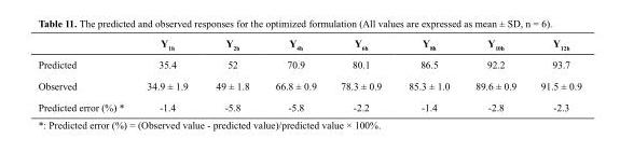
<table><thead><tr><td></td><td>Y1h</td><td>Y2h</td><td>Y4h</td><td>Y6h</td><td>Y8h</td><td>Y10h</td><td>Y12h</td></tr></thead><tbody><tr><td>Predicted</td><td>35.4</td><td>52</td><td>70.9</td><td>80.1</td><td>86.5</td><td>92.2</td><td>93.7</td></tr><tr><td>Observed</td><td>34.9 ± 1.9</td><td>49 ± 1.8</td><td>66.8 ± 0.9</td><td>78.3 ± 0.9</td><td>85.3 ± 1.0</td><td>89.6 ± 0.9</td><td>91.5 ± 0.9</td></tr><tr><td>Predicted error (%) *</td><td>-1.4</td><td>-5.8</td><td>-5.8</td><td>-2.2</td><td>-1.4</td><td>-2.8</td><td>-2.3</td></tr></tbody></table>